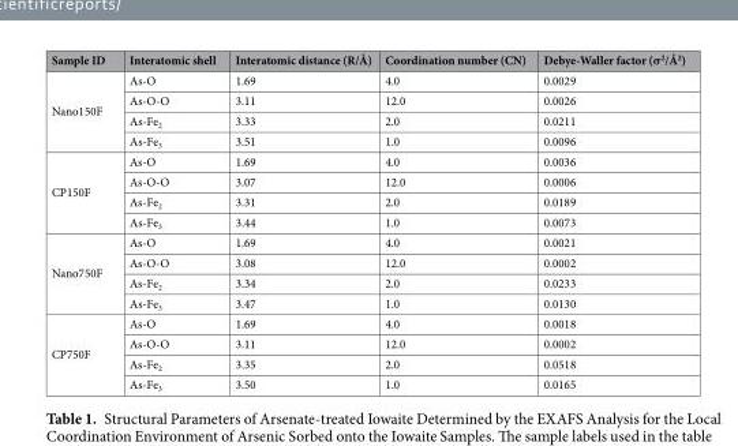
<table><thead><tr><td>Sample ID</td><td>Interatomic shell</td><td>Interatomic distance (R/Å)</td><td>Coordination number (CN)</td><td>Debye-Waller factor (σ<sup>2</sup>/Å<sup>2</sup>)</td></tr></thead><tbody><tr><td rowspan="4">Nano150F</td><td>As-O</td><td>1.69</td><td>4.0</td><td>0.0029</td></tr><tr><td>As-O-O</td><td>3.11</td><td>12.0</td><td>0.0026</td></tr><tr><td>As-Fe<sub>2</sub></td><td>3.33</td><td>2.0</td><td>0.0211</td></tr><tr><td>As-Fe<sub>3</sub></td><td>3.51</td><td>1.0</td><td>0.0096</td></tr><tr><td rowspan="4">CP150F</td><td>As-O</td><td>1.69</td><td>4.0</td><td>0.0036</td></tr><tr><td>As-O-O</td><td>3.07</td><td>12.0</td><td>0.0006</td></tr><tr><td>As-Fe<sub>2</sub></td><td>3.31</td><td>2.0</td><td>0.0189</td></tr><tr><td>As-Fe<sub>3</sub></td><td>3.44</td><td>1.0</td><td>0.0073</td></tr><tr><td rowspan="4">Nano750F</td><td>As-O</td><td>1.69</td><td>4.0</td><td>0.0021</td></tr><tr><td>As-O-O</td><td>3.08</td><td>12.0</td><td>0.0002</td></tr><tr><td>As-Fe<sub>2</sub></td><td>3.34</td><td>2.0</td><td>0.0233</td></tr><tr><td>As-Fe<sub>3</sub></td><td>3.47</td><td>1.0</td><td>0.0130</td></tr><tr><td rowspan="4">CP750F</td><td>As-O</td><td>1.69</td><td>4.0</td><td>0.0018</td></tr><tr><td>As-O-O</td><td>3.11</td><td>12.0</td><td>0.0002</td></tr><tr><td>As-Fe<sub>2</sub></td><td>3.35</td><td>2.0</td><td>0.0518</td></tr><tr><td>As-Fe<sub>3</sub></td><td>3.50</td><td>1.0</td><td>0.0165</td></tr></tbody></table>